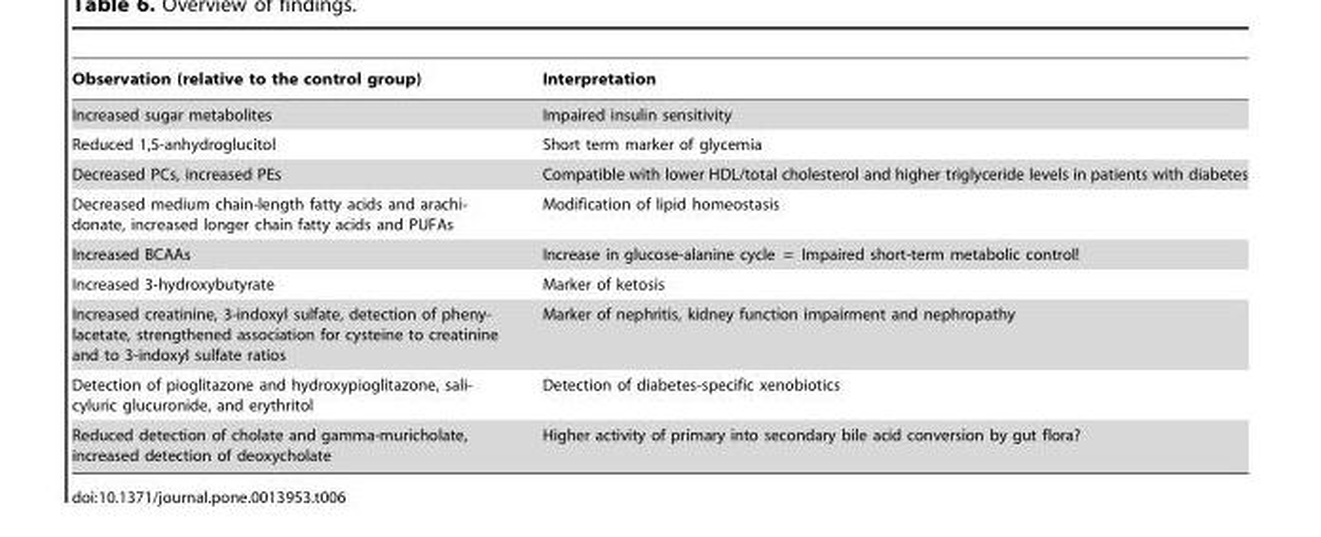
<table><thead><tr><td>Observation (relative to the control group)</td><td>Interpretation</td></tr></thead><tbody><tr><td>Increased sugar metabolites</td><td>Impaired insulin sensitivity</td></tr><tr><td>Reduced 1,5-anhydroglucitol</td><td>Short term marker of glycemia</td></tr><tr><td>Decreased PCs, increased PEs</td><td>Compatible with lower HDL/total cholesterol and higher triglyceride levels in patients with diabetes</td></tr><tr><td>Decreased medium chain-length fatty acids and arachi- donate, increased longer chain fatty acids and PUFAs</td><td>Modification of lipid homeostasis</td></tr><tr><td>Increased BCAAs</td><td>Increase in glucose-alanine cycle = Impaired short-term metabolic control!</td></tr><tr><td>Increased 3-hydroxybutyrate</td><td>Marker of ketosis</td></tr><tr><td>Increased creatinine, 3-indoxyl sulfate, detection of pheny- lacetate, strengthened association for cysteine to creatinine and to 3-indoxyl sulfate ratios</td><td>Marker of nephritis, kidney function impairment and nephropathy</td></tr><tr><td>Detection of pioglitazone and hydroxypioglitazone, sali- cyluric glucuronide, and erythritol</td><td>Detection of diabetes-specific xenobiotics</td></tr><tr><td>Reduced detection of cholate and gamma-muricholate, increased detection of deoxycholate</td><td>Higher activity of primary into secondary bile acid conversion by gut flora?</td></tr></tbody></table>